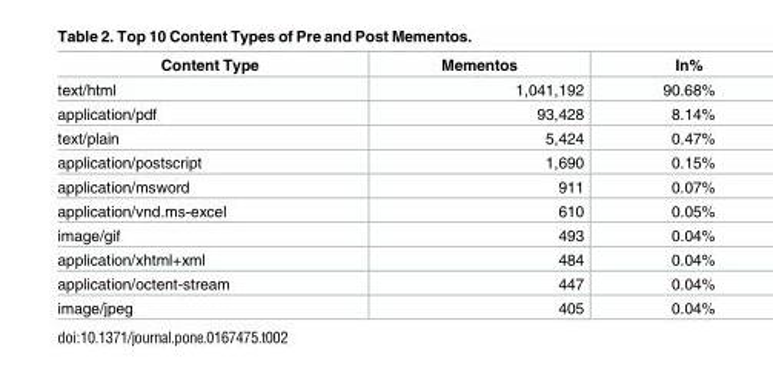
<table><thead><tr><td>Content Type</td><td>Mementos</td><td>In%</td></tr></thead><tbody><tr><td>text/html</td><td>1,041,192</td><td>90.68%</td></tr><tr><td>application/pdf</td><td>93,428</td><td>8.14%</td></tr><tr><td>text/plain</td><td>5,424</td><td>0.47%</td></tr><tr><td>application/postscript</td><td>1,690</td><td>0.15%</td></tr><tr><td>application/msword</td><td>911</td><td>0.07%</td></tr><tr><td>application/vnd.ms-excel</td><td>610</td><td>0.05%</td></tr><tr><td>image/gif</td><td>493</td><td>0.04%</td></tr><tr><td>application/xhtml+xml</td><td>484</td><td>0.04%</td></tr><tr><td>application/octent-stream</td><td>447</td><td>0.04%</td></tr><tr><td>image/jpeg</td><td>405</td><td>0.04%</td></tr></tbody></table>